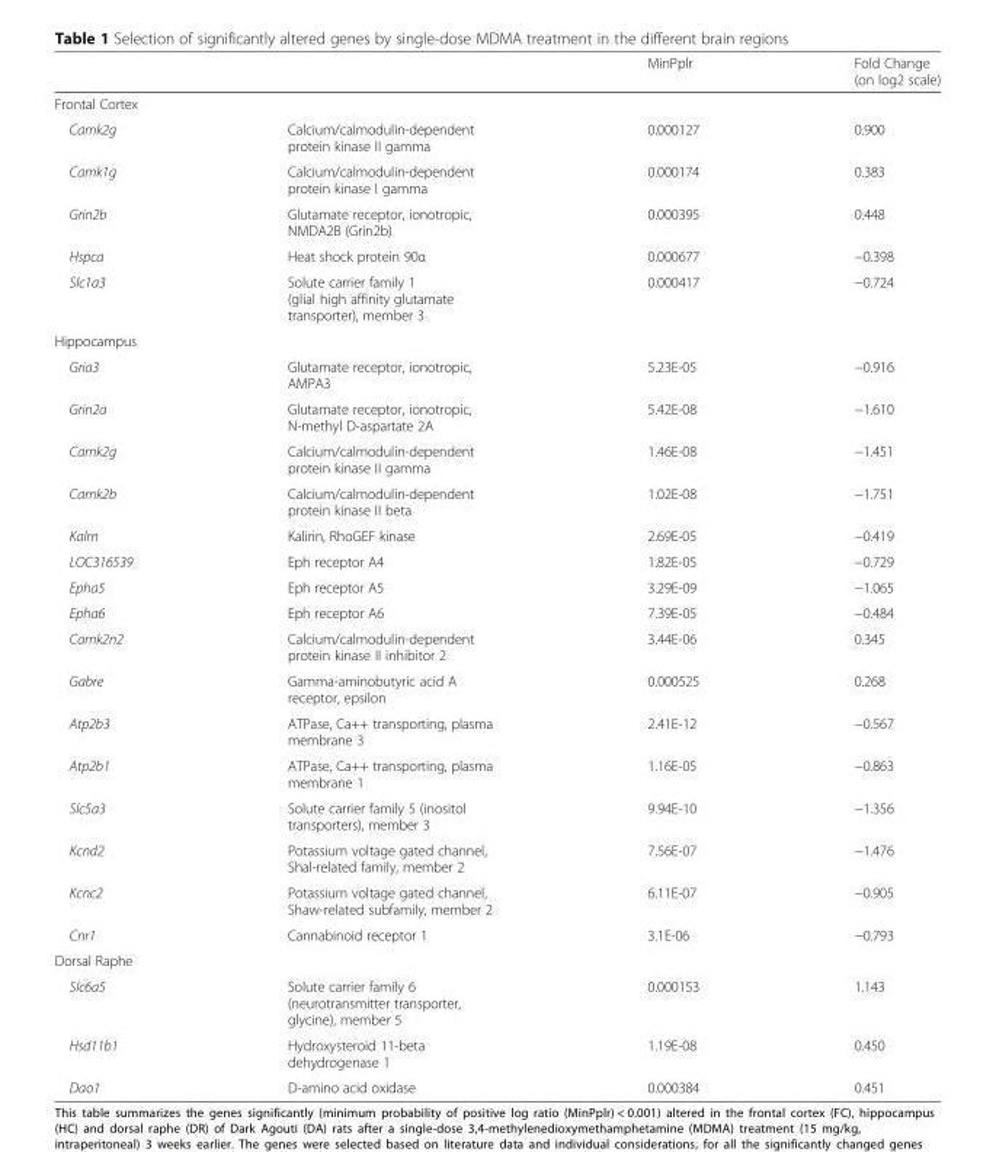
<table><thead><tr><td></td><td></td><td>MinPplr</td><td>Fold Change (on log2 scale)</td></tr></thead><tbody><tr><td colspan="4">Frontal Cortex</td></tr><tr><td>Camk2g</td><td>Calcium/calmodulin-dependent protein kinase II gamma</td><td>0.000127</td><td>0.900</td></tr><tr><td>Camk1g</td><td>Calcium/calmodulin-dependent protein kinase I gamma</td><td>0.000174</td><td>0.383</td></tr><tr><td>Grin2b</td><td>Glutamate receptor, ionotropic, NMDA2B (Grin2b)</td><td>0.000395</td><td>0.448</td></tr><tr><td>Hspca</td><td>Heat shock protein 90α</td><td>0.000677</td><td>−0.398</td></tr><tr><td>Slc1a3</td><td>Solute carrier family 1 (glial high affinity glutamate transporter), member 3</td><td>0.000417</td><td>−0.724</td></tr><tr><td colspan="4">Hippocampus</td></tr><tr><td>Gria3</td><td>Glutamate receptor, ionotropic, AMPA3</td><td>5.23E-05</td><td>−0.916</td></tr><tr><td>Grin2a</td><td>Glutamate receptor, ionotropic, N-methyl D-aspartate 2A</td><td>5.42E-08</td><td>−1.610</td></tr><tr><td>Camk2g</td><td>Calcium/calmodulin-dependent protein kinase II gamma</td><td>1.46E-08</td><td>−1.451</td></tr><tr><td>Camk2b</td><td>Calcium/calmodulin-dependent protein kinase II beta</td><td>1.02E-08</td><td>−1.751</td></tr><tr><td>Kalrn</td><td>Kalirin, RhoGEF kinase</td><td>2.69E-05</td><td>−0.419</td></tr><tr><td>LOC316539</td><td>Eph receptor A4</td><td>1.82E-05</td><td>−0.729</td></tr><tr><td>Epha5</td><td>Eph receptor A5</td><td>3.29E-09</td><td>−1.065</td></tr><tr><td>Epha6</td><td>Eph receptor A6</td><td>7.39E-05</td><td>−0.484</td></tr><tr><td>Camk2n2</td><td>Calcium/calmodulin-dependent protein kinase II inhibitor 2</td><td>3.44E-06</td><td>0.345</td></tr><tr><td>Gabre</td><td>Gamma-aminobutyric acid A receptor, epsilon</td><td>0.000525</td><td>0.268</td></tr><tr><td>Atp2b3</td><td>ATPase, Ca++ transporting, plasma membrane 3</td><td>2.41E-12</td><td>−0.567</td></tr><tr><td>Atp2b1</td><td>ATPase, Ca++ transporting, plasma membrane 1</td><td>1.16E-05</td><td>−0.863</td></tr><tr><td>Slc5a3</td><td>Solute carrier family 5 (inositol transporters), member 3</td><td>9.94E-10</td><td>−1.356</td></tr><tr><td>Kcnd2</td><td>Potassium voltage gated channel, Shal-related family, member 2</td><td>7.56E-07</td><td>−1.476</td></tr><tr><td>Kcnc2</td><td>Potassium voltage gated channel, Shaw-related subfamily, member 2</td><td>6.11E-07</td><td>−0.905</td></tr><tr><td>Cnr1</td><td>Cannabinoid receptor 1</td><td>3.1E-06</td><td>−0.793</td></tr><tr><td colspan="4">Dorsal Raphe</td></tr><tr><td>Slc6a5</td><td>Solute carrier family 6 (neurotransmitter transporter, glycine), member 5</td><td>0.000153</td><td>1.143</td></tr><tr><td>Hsd11b1</td><td>Hydroxysteroid 11-beta dehydrogenase 1</td><td>1.19E-08</td><td>0.450</td></tr><tr><td>Dao1</td><td>D-amino acid oxidase</td><td>0.000384</td><td>0.451</td></tr></tbody></table>